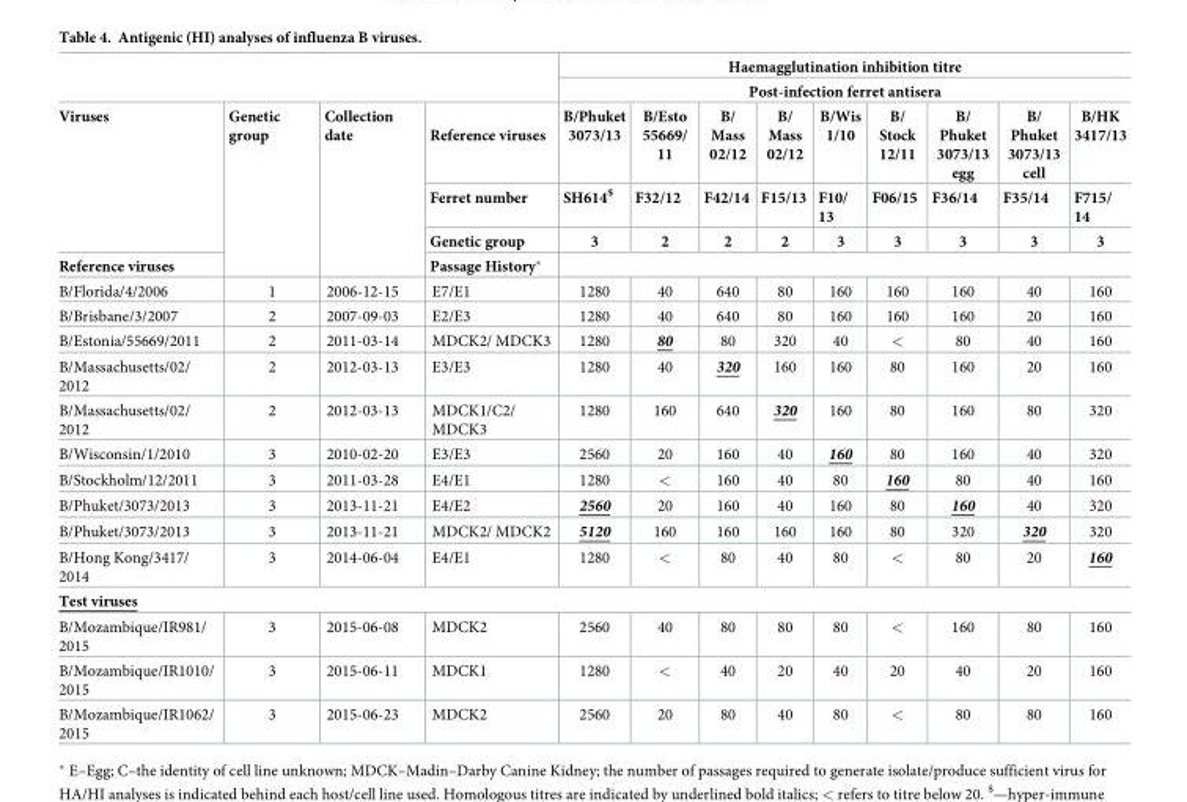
<table><thead><tr><td rowspan="6">Viruses Reference viruses</td><td rowspan="6">Genetic group</td><td rowspan="6">Collection date</td><td rowspan="6">Reference viruses Ferret number Genetic group Passage History*</td><td rowspan="2" colspan="9">Haemagglutination inhibition titre Post-infection ferret antisera</td></tr><tr></tr><tr><td rowspan="4">B/Phuket 3073/13 SH614<sup>$</sup> 3</td><td rowspan="4">B/Esto 55669/ 11 F32/12 2</td><td rowspan="4">B/ Mass 02/12 F42/14 2</td><td rowspan="4">B/ Mass 02/12 F15/13 2</td><td rowspan="4">B/Wis 1/10 F10/ 13 3</td><td rowspan="4">B/ Stock 12/11 F06/15 3</td><td rowspan="4">B/ Phuket 3073/13 egg F36/14 3</td><td rowspan="4">B/ Phuket 3073/13 cell F35/14 3</td><td rowspan="4">B/HK 3417/13 F715/ 14 3</td></tr><tr></tr><tr></tr><tr></tr></thead><tbody><tr><td>B/Florida/4/2006</td><td>1</td><td>2006-12-15</td><td>E7/E1</td><td>1280</td><td>40</td><td>640</td><td>80</td><td>160</td><td>160</td><td>160</td><td>40</td><td>160</td></tr><tr><td>B/Brisbane/3/2007</td><td>2</td><td>2007-09-03</td><td>E2/E3</td><td>1280</td><td>40</td><td>640</td><td>80</td><td>160</td><td>160</td><td>160</td><td>20</td><td>160</td></tr><tr><td>B/Estonia/55669/2011</td><td>2</td><td>2011-03-14</td><td>MDCK2/ MDCK3</td><td>1280</td><td>80</td><td>80</td><td>320</td><td>40</td><td>&lt;</td><td>80</td><td>40</td><td>160</td></tr><tr><td>B/Massachusetts/02/ 2012</td><td>2</td><td>2012-03-13</td><td>E3/E3</td><td>1280</td><td>40</td><td>320</td><td>160</td><td>160</td><td>80</td><td>160</td><td>20</td><td>160</td></tr><tr><td>B/Massachusetts/02/ 2012</td><td>2</td><td>2012-03-13</td><td>MDCK1/C2/ MDCK3</td><td>1280</td><td>160</td><td>640</td><td>320</td><td>160</td><td>80</td><td>160</td><td>80</td><td>320</td></tr><tr><td>B/Wisconsin/1/2010</td><td>3</td><td>2010-02-20</td><td>E3/E3</td><td>2560</td><td>20</td><td>160</td><td>40</td><td>160</td><td>80</td><td>160</td><td>40</td><td>320</td></tr><tr><td>B/Stockholm/12/2011</td><td>3</td><td>2011-03-28</td><td>E4/E1</td><td>1280</td><td>&lt;</td><td>160</td><td>40</td><td>80</td><td>160</td><td>80</td><td>40</td><td>160</td></tr><tr><td>B/Phuket/3073/2013</td><td>3</td><td>2013-11-21</td><td>E4/E2</td><td>2560</td><td>20</td><td>160</td><td>40</td><td>160</td><td>80</td><td>160</td><td>40</td><td>320</td></tr><tr><td>B/Phuket/3073/2013</td><td>3</td><td>2013-11-21</td><td>MDCK2/ MDCK2</td><td>5120</td><td>160</td><td>160</td><td>160</td><td>160</td><td>80</td><td>320</td><td>320</td><td>320</td></tr><tr><td>B/Hong Kong/3417/ 2014</td><td>3</td><td>2014-06-04</td><td>E4/E1</td><td>1280</td><td>&lt;</td><td>80</td><td>40</td><td>80</td><td>&lt;</td><td>80</td><td>20</td><td>160</td></tr><tr><td colspan="13">Test viruses</td></tr><tr><td>B/Mozambique/IR981/ 2015</td><td>3</td><td>2015-06-08</td><td>MDCK2</td><td>2560</td><td>40</td><td>80</td><td>80</td><td>80</td><td>&lt;</td><td>160</td><td>80</td><td>160</td></tr><tr><td>B/Mozambique/IR1010/ 2015</td><td>3</td><td>2015-06-11</td><td>MDCK1</td><td>1280</td><td>&lt;</td><td>40</td><td>20</td><td>40</td><td>20</td><td>40</td><td>20</td><td>160</td></tr><tr><td>B/Mozambique/IR1062/ 2015</td><td>3</td><td>2015-06-23</td><td>MDCK2</td><td>2560</td><td>20</td><td>80</td><td>40</td><td>80</td><td>&lt;</td><td>80</td><td>80</td><td>160</td></tr></tbody></table>